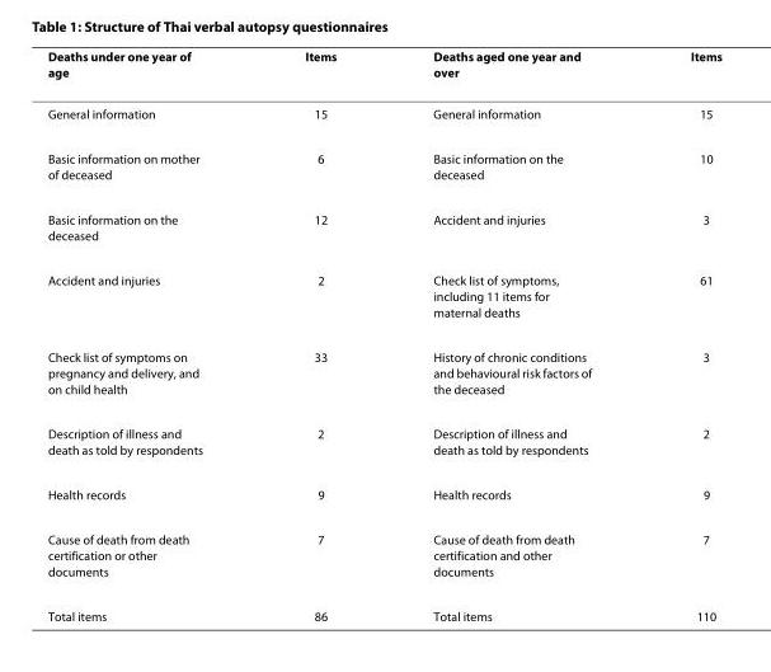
<table><thead><tr><td>Deaths under one year of age</td><td>Items</td><td>Deaths aged one year and over</td><td>Items</td></tr></thead><tbody><tr><td>General information</td><td>15</td><td>General information</td><td>15</td></tr><tr><td>Basic information on mother of deceased</td><td>6</td><td>Basic information on the deceased</td><td>10</td></tr><tr><td>Basic information on the deceased</td><td>12</td><td>Accident and injuries</td><td>3</td></tr><tr><td>Accident and injuries</td><td>2</td><td>Check list of symptoms, including 11 items for maternal deaths</td><td>61</td></tr><tr><td>Check list of symptoms on pregnancy and delivery, and on child health</td><td>33</td><td>History of chronic conditions and behavioural risk factors of the deceased</td><td>3</td></tr><tr><td>Description of illness and death as told by respondents</td><td>2</td><td>Description of illness and death as told by respondents</td><td>2</td></tr><tr><td>Health records</td><td>9</td><td>Health records</td><td>9</td></tr><tr><td>Cause of death from death certification or other documents</td><td>7</td><td>Cause of death from death certification and other documents</td><td>7</td></tr><tr><td>Total items</td><td>86</td><td>Total items</td><td>110</td></tr></tbody></table>